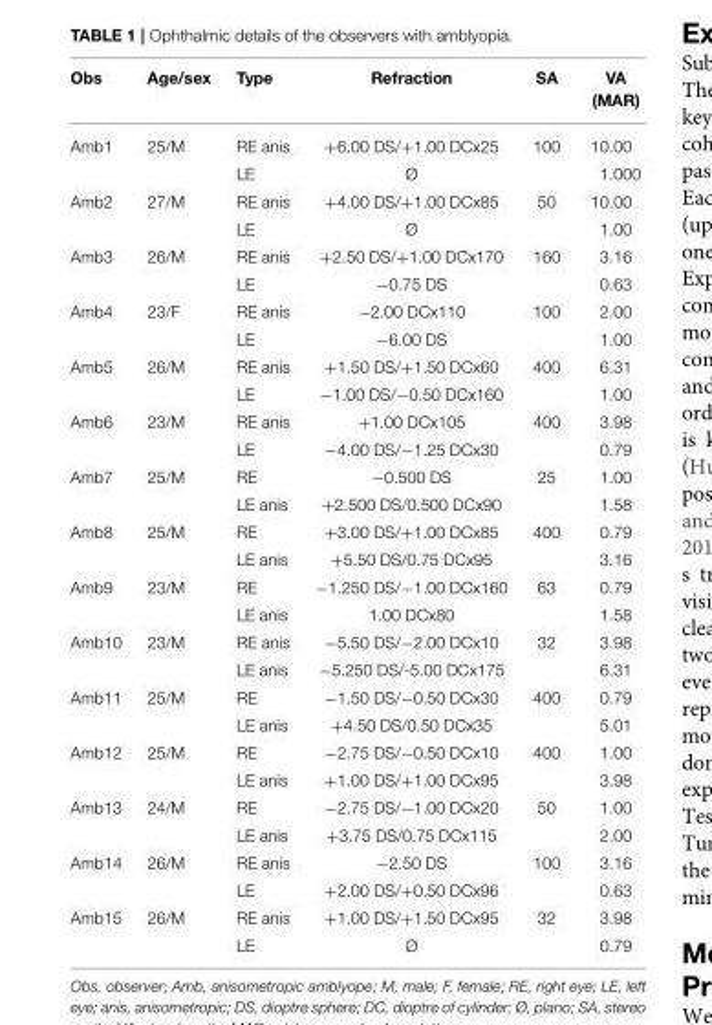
<table><thead><tr><td>Obs</td><td>Age/sex</td><td>Type</td><td>Refraction</td><td>SA</td><td>VA (MAR)</td></tr></thead><tbody><tr><td rowspan="2">Amb1</td><td>25/M</td><td>RE anis</td><td>+6.00 DS/+1.00 DCx25</td><td>100</td><td>10.00</td></tr><tr><td></td><td>LE</td><td>Ø</td><td></td><td>1.000</td></tr><tr><td rowspan="2">Amb2</td><td>27/M</td><td>RE anis</td><td>+4.00 DS/+1.00 DCx85</td><td>50</td><td>10.00</td></tr><tr><td></td><td>LE</td><td>Ø</td><td></td><td>1.00</td></tr><tr><td rowspan="2">Amb3</td><td>26/M</td><td>RE anis</td><td>+2.50 DS/+1.00 DCx170</td><td>160</td><td>3.16</td></tr><tr><td></td><td>LE</td><td>−0.75 DS</td><td></td><td>0.63</td></tr><tr><td rowspan="2">Amb4</td><td>23/F</td><td>RE anis</td><td>−2.00 DCx110</td><td>100</td><td>2.00</td></tr><tr><td></td><td>LE</td><td>−6.00 DS</td><td></td><td>1.00</td></tr><tr><td rowspan="2">Amb5</td><td>26/M</td><td>RE anis</td><td>+1.50 DS/+1.50 DCx60</td><td>400</td><td>6.31</td></tr><tr><td></td><td>LE</td><td>−1.00 DS/−0.50 DCx160</td><td></td><td>1.00</td></tr><tr><td rowspan="2">Amb6</td><td>23/M</td><td>RE anis</td><td>+1.00 DCx105</td><td>400</td><td>3.98</td></tr><tr><td></td><td>LE</td><td>−4.00 DS/−1.25 DCx30</td><td></td><td>0.79</td></tr><tr><td rowspan="2">Amb7</td><td>25/M</td><td>RE</td><td>−0.500 DS</td><td>25</td><td>1.00</td></tr><tr><td></td><td>LE anis</td><td>+2.500 DS/0.500 DCx90</td><td></td><td>1.58</td></tr><tr><td rowspan="2">Amb8</td><td>25/M</td><td>RE</td><td>+3.00 DS/+1.00 DCx85</td><td>400</td><td>0.79</td></tr><tr><td></td><td>LE anis</td><td>+5.50 DS/0.75 DCx95</td><td></td><td>3.16</td></tr><tr><td rowspan="2">Amb9</td><td>23/M</td><td>RE</td><td>−1.250 DS/−1.00 DCx160</td><td>63</td><td>0.79</td></tr><tr><td></td><td>LE anis</td><td>1.00 DCx80</td><td></td><td>1.58</td></tr><tr><td rowspan="2">Amb10</td><td>23/M</td><td>RE anis</td><td>−5.50 DS/−2.00 DCx10</td><td>32</td><td>3.98</td></tr><tr><td></td><td>LE anis</td><td>−5.250 DS/-5.00 DCx175</td><td></td><td>6.31</td></tr><tr><td rowspan="2">Amb11</td><td>25/M</td><td>RE</td><td>−1.50 DS/−0.50 DCx30</td><td>400</td><td>0.79</td></tr><tr><td></td><td>LE anis</td><td>+4.50 DS/0.50 DCx35</td><td></td><td>5.01</td></tr><tr><td rowspan="2">Amb12</td><td>25/M</td><td>RE</td><td>−2.75 DS/−0.50 DCx10</td><td>400</td><td>1.00</td></tr><tr><td></td><td>LE anis</td><td>+1.00 DS/+1.00 DCx95</td><td></td><td>3.98</td></tr><tr><td rowspan="2">Amb13</td><td>24/M</td><td>RE</td><td>−2.75 DS/−1.00 DCx20</td><td>50</td><td>1.00</td></tr><tr><td></td><td>LE anis</td><td>+3.75 DS/0.75 DCx115</td><td></td><td>2.00</td></tr><tr><td rowspan="2">Amb14</td><td>26/M</td><td>RE anis</td><td>−2.50 DS</td><td>100</td><td>3.16</td></tr><tr><td></td><td>LE</td><td>+2.00 DS/+0.50 DCx96</td><td></td><td>0.63</td></tr><tr><td rowspan="2">Amb15</td><td>26/M</td><td>RE anis</td><td>+1.00 DS/+1.50 DCx95</td><td>32</td><td>3.98</td></tr><tr><td></td><td>LE</td><td>Ø</td><td></td><td>0.79</td></tr></tbody></table>